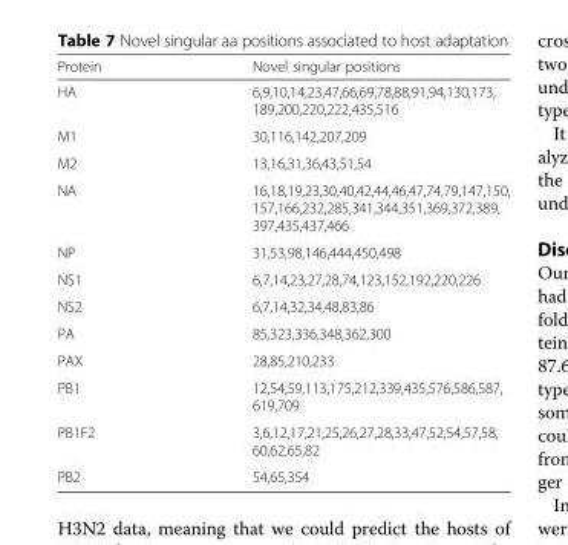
<table><thead><tr><td>Protein</td><td>Novel singular positions</td></tr></thead><tbody><tr><td>HA</td><td>6,9,10,14,23,47,66,69,78,88,91,94,130,173, 189,200,220,222,435,516</td></tr><tr><td>M1</td><td>30,116,142,207,209</td></tr><tr><td>M2</td><td>13,16,31,36,43,51,54</td></tr><tr><td>NA</td><td>16,18,19,23,30,40,42,44,46,47,74,79,147,150, 157,166,232,285,341,344,351,369,372,389, 397,435,437,466</td></tr><tr><td>NP</td><td>31,53,98,146,444,450,498</td></tr><tr><td>NS1</td><td>6,7,14,23,27,28,74,123,152,192,220,226</td></tr><tr><td>NS2</td><td>6,7,14,32,34,48,83,86</td></tr><tr><td>PA</td><td>85,323,336,348,362,300</td></tr><tr><td>PAX</td><td>28,85,210,233</td></tr><tr><td>PB1</td><td>12,54,59,113,175,212,339,435,576,586,587, 619,709</td></tr><tr><td>PB1F2</td><td>3,6,12,17,21,25,26,27,28,33,47,52,54,57,58, 60,62,65,82</td></tr><tr><td>PB2</td><td>54,65,354</td></tr></tbody></table>